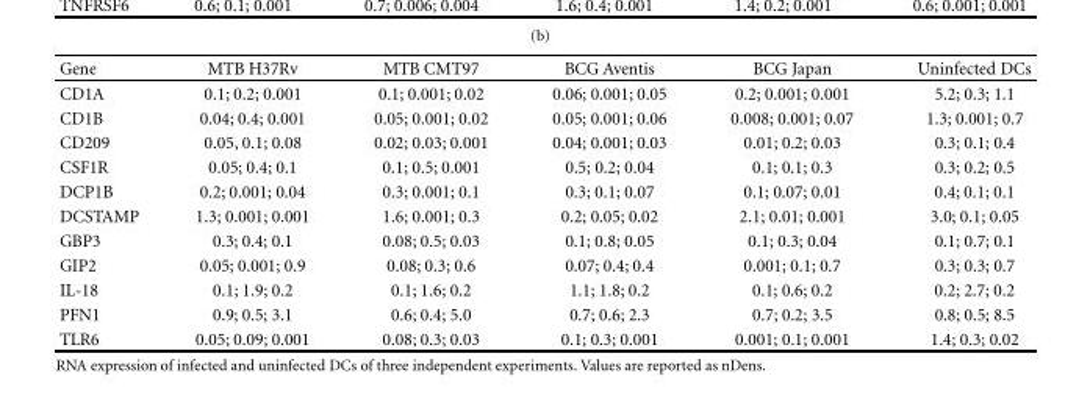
<table><thead><tr><td>Gene</td><td>MTB H37Rv</td><td>MTB CMT97</td><td>BCG Aventis</td><td>BCG Japan</td><td>Uninfected DCs</td></tr></thead><tbody><tr><td>CD1A</td><td>0.1; 0.2; 0.001</td><td>0.1; 0.001; 0.02</td><td>0.06; 0.001; 0.05</td><td>0.2; 0.001; 0.001</td><td>5.2; 0.3; 1.1</td></tr><tr><td>CD1B</td><td>0.04; 0.4; 0.001</td><td>0.05; 0.001; 0.02</td><td>0.05; 0.001; 0.06</td><td>0.008; 0.001; 0.07</td><td>1.3; 0.001; 0.7</td></tr><tr><td>CD209</td><td>0.05, 0.1; 0.08</td><td>0.02; 0.03; 0.001</td><td>0.04; 0.001; 0.03</td><td>0.01; 0.2; 0.03</td><td>0.3; 0.1; 0.4</td></tr><tr><td>CSF1R</td><td>0.05; 0.4; 0.1</td><td>0.1; 0.5; 0.001</td><td>0.5; 0.2; 0.04</td><td>0.1; 0.1; 0.3</td><td>0.3; 0.2; 0.5</td></tr><tr><td>DCP1B</td><td>0.2; 0.001; 0.04</td><td>0.3; 0.001; 0.1</td><td>0.3; 0.1; 0.07</td><td>0.1; 0.07; 0.01</td><td>0.4; 0.1; 0.1</td></tr><tr><td>DCSTAMP</td><td>1.3; 0.001; 0.001</td><td>1.6; 0.001; 0.3</td><td>0.2; 0.05; 0.02</td><td>2.1; 0.01; 0.001</td><td>3.0; 0.1; 0.05</td></tr><tr><td>GBP3</td><td>0.3; 0.4; 0.1</td><td>0.08; 0.5; 0.03</td><td>0.1; 0.8; 0.05</td><td>0.1; 0.3; 0.04</td><td>0.1; 0.7; 0.1</td></tr><tr><td>GIP2</td><td>0.05; 0.001; 0.9</td><td>0.08; 0.3; 0.6</td><td>0.07; 0.4; 0.4</td><td>0.001; 0.1; 0.7</td><td>0.3; 0.3; 0.7</td></tr><tr><td>IL-18</td><td>0.1; 1.9; 0.2</td><td>0.1; 1.6; 0.2</td><td>1.1; 1.8; 0.2</td><td>0.1; 0.6; 0.2</td><td>0.2; 2.7; 0.2</td></tr><tr><td>PFN1</td><td>0.9; 0.5; 3.1</td><td>0.6; 0.4; 5.0</td><td>0.7; 0.6; 2.3</td><td>0.7; 0.2; 3.5</td><td>0.8; 0.5; 8.5</td></tr><tr><td>TLR6</td><td>0.05; 0.09; 0.001</td><td>0.08; 0.3; 0.03</td><td>0.1; 0.3; 0.001</td><td>0.001; 0.1; 0.001</td><td>1.4; 0.3; 0.02</td></tr></tbody></table>